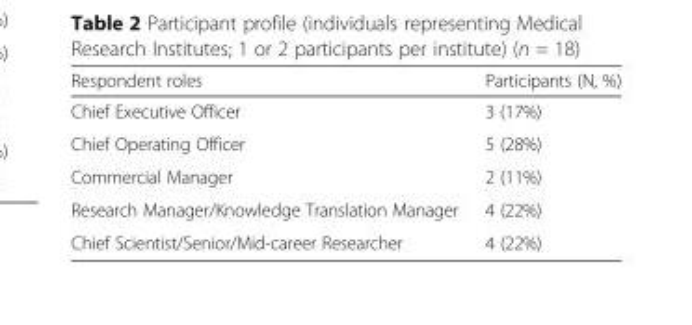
<table><thead><tr><td>Respondent roles</td><td>Participants (N, %)</td></tr></thead><tbody><tr><td>Chief Executive Officer</td><td>3 (17%)</td></tr><tr><td>Chief Operating Officer</td><td>5 (28%)</td></tr><tr><td>Commercial Manager</td><td>2 (11%)</td></tr><tr><td>Research Manager/Knowledge Translation Manager</td><td>4 (22%)</td></tr><tr><td>Chief Scientist/Senior/Mid-career Researcher</td><td>4 (22%)</td></tr></tbody></table>